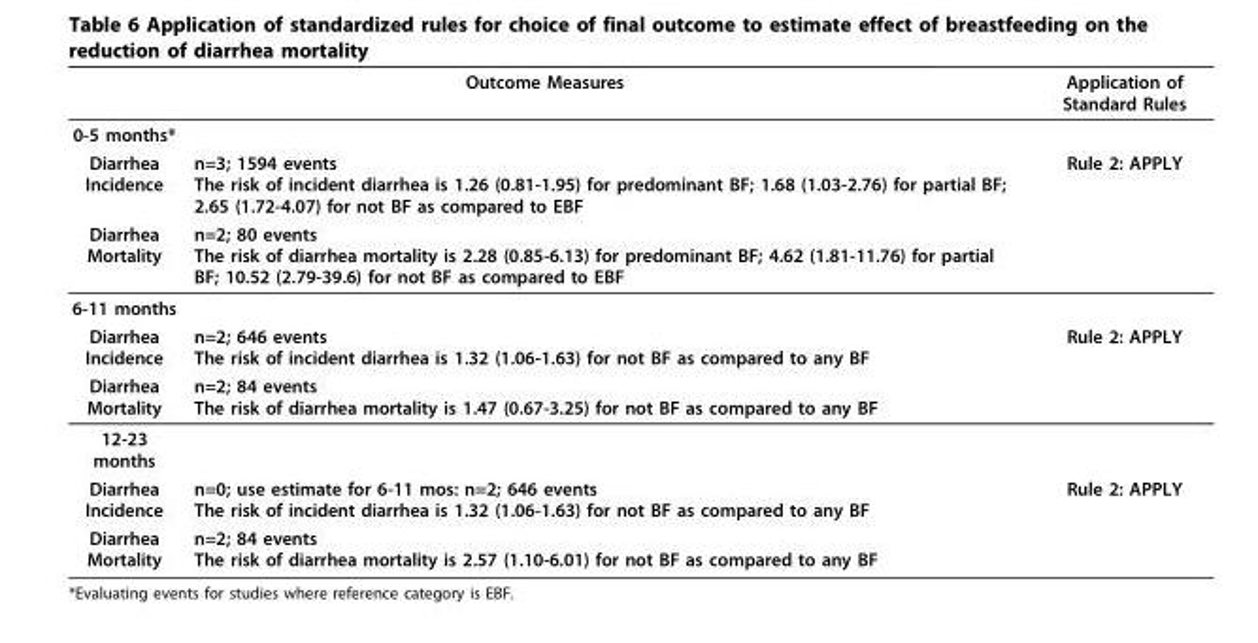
<table><thead><tr><td colspan="2">Outcome Measures</td><td rowspan="2">Application of Standard Rules</td></tr><tr><td>0-5 months*</td><td></td></tr></thead><tbody><tr><td>Diarrhea Incidence</td><td>n=3; 1594 events The risk of incident diarrhea is 1.26 (0.81-1.95) for predominant BF; 1.68 (1.03-2.76) for partial BF; 2.65 (1.72-4.07) for not BF as compared to EBF</td><td>Rule 2: APPLY</td></tr><tr><td>Diarrhea Mortality</td><td>n=2; 80 events The risk of diarrhea mortality is 2.28 (0.85-6.13) for predominant BF; 4.62 (1.81-11.76) for partial BF; 10.52 (2.79-39.6) for not BF as compared to EBF</td><td></td></tr><tr><td colspan="3">6-11 months</td></tr><tr><td>Diarrhea Incidence</td><td>n=2; 646 events The risk of incident diarrhea is 1.32 (1.06-1.63) for not BF as compared to any BF</td><td>Rule 2: APPLY</td></tr><tr><td>Diarrhea Mortality</td><td>n=2; 84 events The risk of diarrhea mortality is 1.47 (0.67-3.25) for not BF as compared to any BF</td><td></td></tr><tr><td colspan="3">12-23 months</td></tr><tr><td>Diarrhea Incidence</td><td>n=0; use estimate for 6-11 mos: n=2; 646 events The risk of incident diarrhea is 1.32 (1.06-1.63) for not BF as compared to any BF</td><td>Rule 2: APPLY</td></tr><tr><td>Diarrhea Mortality</td><td>n=2; 84 events The risk of diarrhea mortality is 2.57 (1.10-6.01) for not BF as compared to any BF</td><td></td></tr></tbody></table>